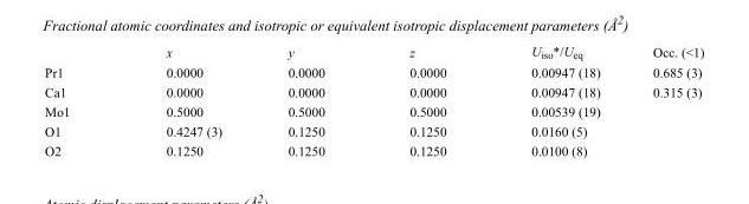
<table><thead><tr><td></td><td>x</td><td>y</td><td>z</td><td>U<sub>iso</sub>*/U<sub>eq</sub></td><td>Occ. (&lt;1)</td></tr></thead><tbody><tr><td>Pr1</td><td>0.0000</td><td>0.0000</td><td>0.0000</td><td>0.00947 (18)</td><td>0.685 (3)</td></tr><tr><td>Ca1</td><td>0.0000</td><td>0.0000</td><td>0.0000</td><td>0.00947 (18)</td><td>0.315 (3)</td></tr><tr><td>Mo1</td><td>0.5000</td><td>0.5000</td><td>0.5000</td><td>0.00539 (19)</td><td></td></tr><tr><td>O1</td><td>0.4247 (3)</td><td>0.1250</td><td>0.1250</td><td>0.0160 (5)</td><td></td></tr><tr><td>O2</td><td>0.1250</td><td>0.1250</td><td>0.1250</td><td>0.0100 (8)</td><td></td></tr></tbody></table>